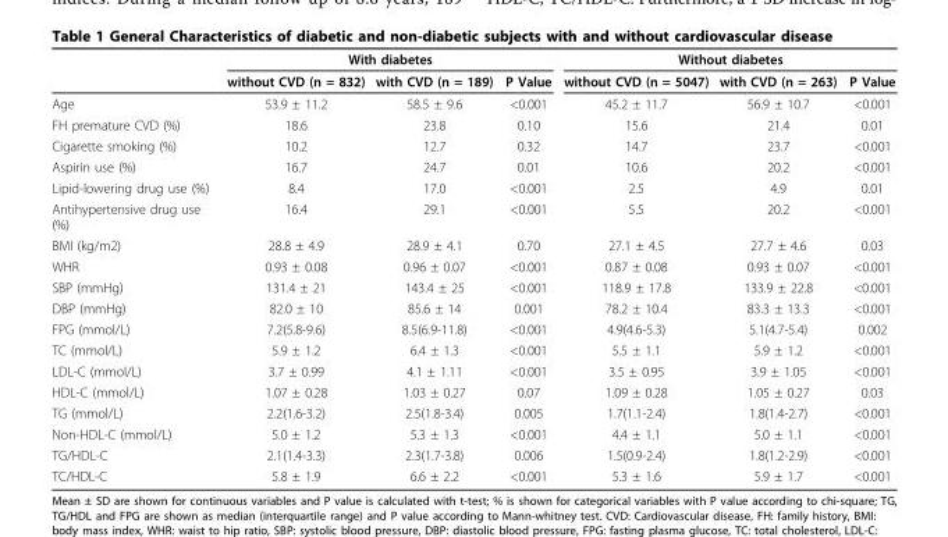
<table><thead><tr><td rowspan="2"></td><td colspan="3">With diabetes</td><td colspan="3">Without diabetes</td></tr><tr><td>without CVD (n = 832)</td><td>with CVD (n = 189)</td><td>P Value</td><td>without CVD (n = 5047)</td><td>with CVD (n = 263)</td><td>P Value</td></tr></thead><tbody><tr><td>Age</td><td>53.9 ± 11.2</td><td>58.5 ± 9.6</td><td>&lt;0.001</td><td>45.2 ± 11.7</td><td>56.9 ± 10.7</td><td>&lt;0.001</td></tr><tr><td>FH premature CVD (%)</td><td>18.6</td><td>23.8</td><td>0.10</td><td>15.6</td><td>21.4</td><td>0.01</td></tr><tr><td>Cigarette smoking (%)</td><td>10.2</td><td>12.7</td><td>0.32</td><td>14.7</td><td>23.7</td><td>&lt;0.001</td></tr><tr><td>Aspirin use (%)</td><td>16.7</td><td>24.7</td><td>0.01</td><td>10.6</td><td>20.2</td><td>&lt;0.001</td></tr><tr><td>Lipid-lowering drug use (%)</td><td>8.4</td><td>17.0</td><td>&lt;0.001</td><td>2.5</td><td>4.9</td><td>0.01</td></tr><tr><td>Antihypertensive drug use (%)</td><td>16.4</td><td>29.1</td><td>&lt;0.001</td><td>5.5</td><td>20.2</td><td>&lt;0.001</td></tr><tr><td>BMI (kg/m2)</td><td>28.8 ± 4.9</td><td>28.9 ± 4.1</td><td>0.70</td><td>27.1 ± 4.5</td><td>27.7 ± 4.6</td><td>0.03</td></tr><tr><td>WHR</td><td>0.93 ± 0.08</td><td>0.96 ± 0.07</td><td>&lt;0.001</td><td>0.87 ± 0.08</td><td>0.93 ± 0.07</td><td>&lt;0.001</td></tr><tr><td>SBP (mmHg)</td><td>131.4 ± 21</td><td>143.4 ± 25</td><td>&lt;0.001</td><td>118.9 ± 17.8</td><td>133.9 ± 22.8</td><td>&lt;0.001</td></tr><tr><td>DBP (mmHg)</td><td>82.0 ± 10</td><td>85.6 ± 14</td><td>0.001</td><td>78.2 ± 10.4</td><td>83.3 ± 13.3</td><td>&lt;0.001</td></tr><tr><td>FPG (mmol/L)</td><td>7.2(5.8-9.6)</td><td>8.5(6.9-11.8)</td><td>&lt;0.001</td><td>4.9(4.6-5.3)</td><td>5.1(4.7-5.4)</td><td>0.002</td></tr><tr><td>TC (mmol/L)</td><td>5.9 ± 1.2</td><td>6.4 ± 1.3</td><td>&lt;0.001</td><td>5.5 ± 1.1</td><td>5.9 ± 1.2</td><td>&lt;0.001</td></tr><tr><td>LDL-C (mmol/L)</td><td>3.7 ± 0.99</td><td>4.1 ± 1.11</td><td>&lt;0.001</td><td>3.5 ± 0.95</td><td>3.9 ± 1.05</td><td>&lt;0.001</td></tr><tr><td>HDL-C (mmol/L)</td><td>1.07 ± 0.28</td><td>1.03 ± 0.27</td><td>0.07</td><td>1.09 ± 0.28</td><td>1.05 ± 0.27</td><td>0.03</td></tr><tr><td>TG (mmol/L)</td><td>2.2(1.6-3.2)</td><td>2.5(1.8-3.4)</td><td>0.005</td><td>1.7(1.1-2.4)</td><td>1.8(1.4-2.7)</td><td>&lt;0.001</td></tr><tr><td>Non-HDL-C (mmol/L)</td><td>5.0 ± 1.2</td><td>5.3 ± 1.3</td><td>&lt;0.001</td><td>4.4 ± 1.1</td><td>5.0 ± 1.1</td><td>&lt;0.001</td></tr><tr><td>TG/HDL-C</td><td>2.1(1.4-3.3)</td><td>2.3(1.7-3.8)</td><td>0.006</td><td>1.5(0.9-2.4)</td><td>1.8(1.2-2.9)</td><td>&lt;0.001</td></tr><tr><td>TC/HDL-C</td><td>5.8 ± 1.9</td><td>6.6 ± 2.2</td><td>&lt;0.001</td><td>5.3 ± 1.6</td><td>5.9 ± 1.7</td><td>&lt;0.001</td></tr></tbody></table>